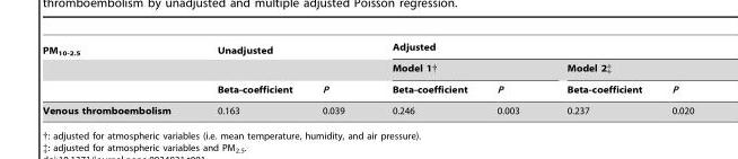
<table><thead><tr><td rowspan="3">PM<sub>10-2.5</sub></td><td colspan="2">Unadjusted</td><td colspan="4">Adjusted</td></tr><tr><td rowspan="2">Beta-coefficient</td><td rowspan="2">P</td><td colspan="2">Model 1†</td><td colspan="2">Model 2‡</td></tr><tr><td>Beta-coefficient</td><td>P</td><td>Beta-coefficient</td><td>P</td></tr></thead><tbody><tr><td>Venous thromboembolism</td><td>0.163</td><td>0.039</td><td>0.246</td><td>0.003</td><td>0.237</td><td>0.020</td></tr></tbody></table>